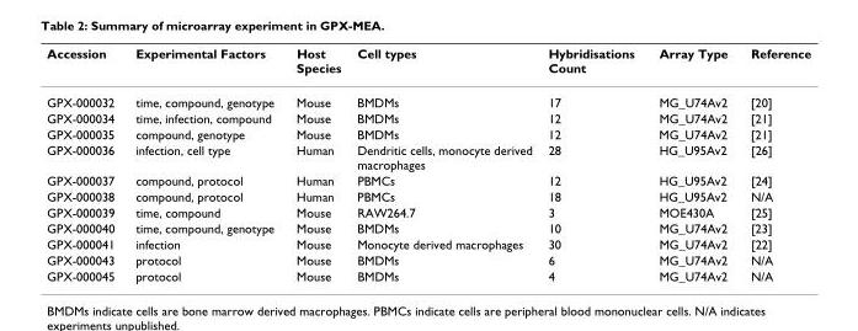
<table><thead><tr><td>Accession</td><td>Experimental Factors</td><td>Host Species</td><td>Cell types</td><td>Hybridisations Count</td><td>Array Type</td><td>Reference</td></tr></thead><tbody><tr><td>GPX-000032</td><td>time, compound, genotype</td><td>Mouse</td><td>BMDMs</td><td>17</td><td>MG_U74Av2</td><td>[20]</td></tr><tr><td>GPX-000034</td><td>time, infection, compound</td><td>Mouse</td><td>BMDMs</td><td>12</td><td>MG_U74Av2</td><td>[21]</td></tr><tr><td>GPX-000035</td><td>compound, genotype</td><td>Mouse</td><td>BMDMs</td><td>12</td><td>MG_U74Av2</td><td>[21]</td></tr><tr><td>GPX-000036</td><td>infection, cell type</td><td>Human</td><td>Dendritic cells, monocyte derived macrophages</td><td>28</td><td>HG_U95Av2</td><td>[26]</td></tr><tr><td>GPX-000037</td><td>compound, protocol</td><td>Human</td><td>PBMCs</td><td>12</td><td>HG_U95Av2</td><td>[24]</td></tr><tr><td>GPX-000038</td><td>compound, protocol</td><td>Human</td><td>PBMCs</td><td>18</td><td>HG_U95Av2</td><td>N/A</td></tr><tr><td>GPX-000039</td><td>time, compound</td><td>Mouse</td><td>RAW264.7</td><td>3</td><td>MOE430A</td><td>[25]</td></tr><tr><td>GPX-000040</td><td>time, compound, genotype</td><td>Mouse</td><td>BMDMs</td><td>10</td><td>MG_U74Av2</td><td>[23]</td></tr><tr><td>GPX-000041</td><td>infection</td><td>Mouse</td><td>Monocyte derived macrophages</td><td>30</td><td>MG_U74Av2</td><td>[22]</td></tr><tr><td>GPX-000043</td><td>protocol</td><td>Mouse</td><td>BMDMs</td><td>6</td><td>MG_U74Av2</td><td>N/A</td></tr><tr><td>GPX-000045</td><td>protocol</td><td>Mouse</td><td>BMDMs</td><td>4</td><td>MG_U74Av2</td><td>N/A</td></tr></tbody></table>